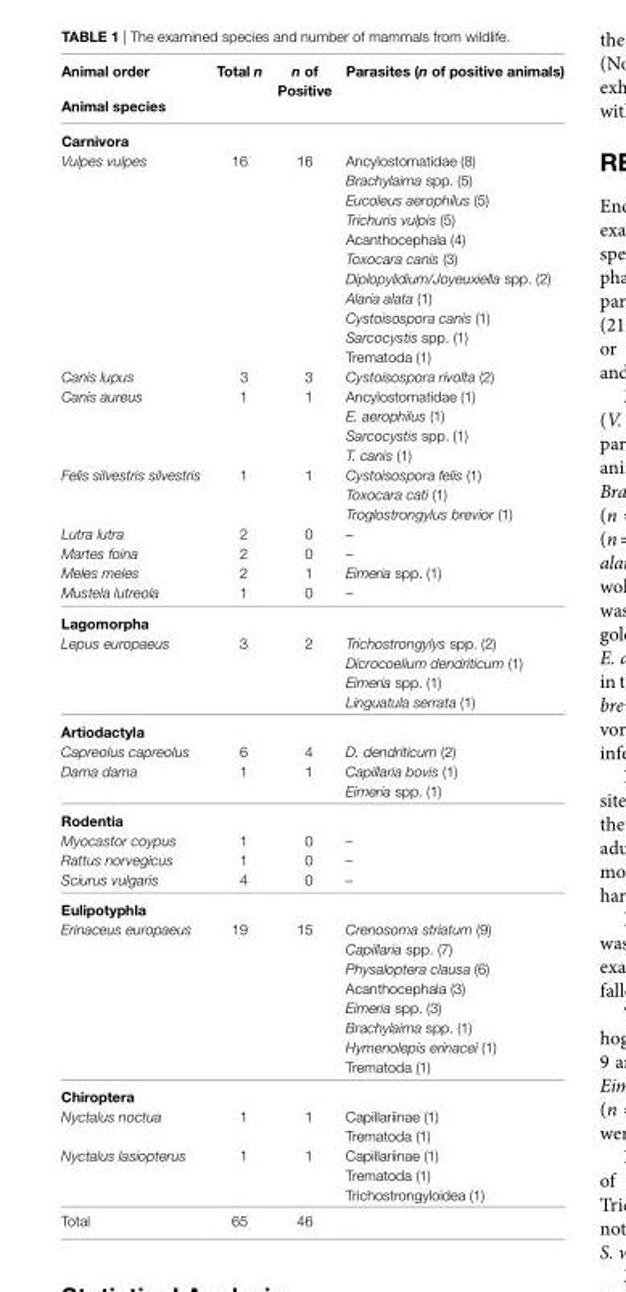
<table><thead><tr><td rowspan="2">animal order animal species</td><td rowspan="2">Total n</td><td rowspan="2">n of Positive</td><td rowspan="2">Parasites (n of positive animals)</td></tr><tr></tr></thead><tbody><tr><td colspan="4">carnivora</td></tr><tr><td>Vulpes vulpes</td><td>16</td><td>16</td><td>Ancylostomatidae (8) Brachylaima spp. (5) Eucoleus aerophilus (5) Trichuris vulpis (5) Acanthocephala (4) Toxocara canis (3) Diplopylidium/Joyeuxiella spp. (2) Alaria alata (1) Cystoisospora canis (1) Sarcocystis spp. (1) Trematoda (1)</td></tr><tr><td>Canis lupus</td><td>3</td><td>3</td><td>Cystoisospora rivolta (2)</td></tr><tr><td>Canis aureus</td><td>1</td><td>1</td><td>Ancylostomatidae (1) E. aerophilus (1) Sarcocystis spp. (1) T. canis (1)</td></tr><tr><td>Felis silvestris silvestris</td><td>1</td><td>1</td><td>Cystoisospora felis (1) Toxocara cati (1) Troglostrongylus brevior (1)</td></tr><tr><td>Lutra lutra</td><td>2</td><td>0</td><td>–</td></tr><tr><td>Martes foina</td><td>2</td><td>0</td><td>–</td></tr><tr><td>Meles meles</td><td>2</td><td>1</td><td>Eimeria spp. (1)</td></tr><tr><td>Mustela lutreola</td><td>1</td><td>0</td><td>–</td></tr><tr><td colspan="4">lagomorpha</td></tr><tr><td>Lepus europaeus</td><td>3</td><td>2</td><td>Trichostrongylys spp. (2) Dicrocoelium dendriticum (1) Eimeria spp. (1) Linguatula serrata (1)</td></tr><tr><td colspan="4">artiodactyla</td></tr><tr><td>Capreolus capreolus</td><td>6</td><td>4</td><td>D. dendriticum (2)</td></tr><tr><td>Dama dama</td><td>1</td><td>1</td><td>Capillaria bovis (1) Eimeria spp. (1)</td></tr><tr><td colspan="4">rodentia</td></tr><tr><td>Myocastor coypus</td><td>1</td><td>0</td><td>–</td></tr><tr><td>Rattus norvegicus</td><td>1</td><td>0</td><td>–</td></tr><tr><td>Sciurus vulgaris</td><td>4</td><td>0</td><td>–</td></tr><tr><td colspan="4">eulipotyphla</td></tr><tr><td>Erinaceus europaeus</td><td>19</td><td>15</td><td>Crenosoma striatum (9) Capillaria spp. (7) Physaloptera clausa (6) Acanthocephala (3) Eimeria spp. (3) Brachylaima spp. (1) Hymenolepis erinacei (1) Trematoda (1)</td></tr><tr><td colspan="4">chiroptera</td></tr><tr><td>Nyctalus noctua</td><td>1</td><td>1</td><td>Capillariinae (1) Trematoda (1)</td></tr><tr><td>Nyctalus lasiopterus</td><td>1</td><td>1</td><td>Capillariinae (1) Trematoda (1) Trichostrongyloidea (1)</td></tr><tr><td>Total</td><td>65</td><td>46</td><td></td></tr></tbody></table>